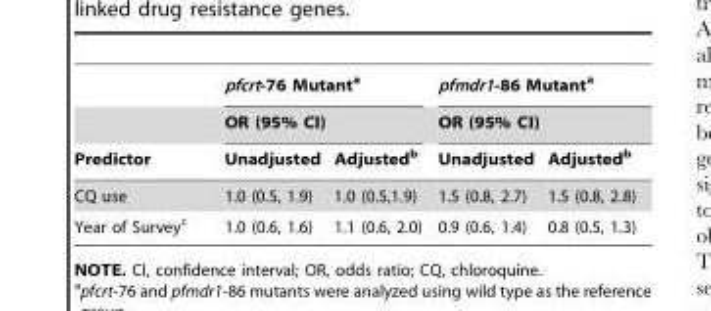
<table><thead><tr><td rowspan="3">Predictor</td><td rowspan="2" colspan="2">pfcrt-76 Mutant<sup>a</sup> OR (95% CI)</td><td rowspan="2" colspan="2">pfmdr1-86 Mutant<sup>a</sup> OR (95% CI)</td></tr><tr></tr><tr><td>Unadjusted</td><td>Adjusted<sup>b</sup></td><td>Unadjusted</td><td>Adjusted<sup>b</sup></td></tr></thead><tbody><tr><td>CQ use</td><td>1.0 (0.5, 1.9)</td><td>1.0 (0.5,1.9)</td><td>1.5 (0.8, 2.7)</td><td>1.5 (0.8, 2.8)</td></tr><tr><td>Year of Survey<sup>c</sup></td><td>1.0 (0.6, 1.6)</td><td>1.1 (0.6, 2.0)</td><td>0.9 (0.6, 1.4)</td><td>0.8 (0.5, 1.3)</td></tr></tbody></table>